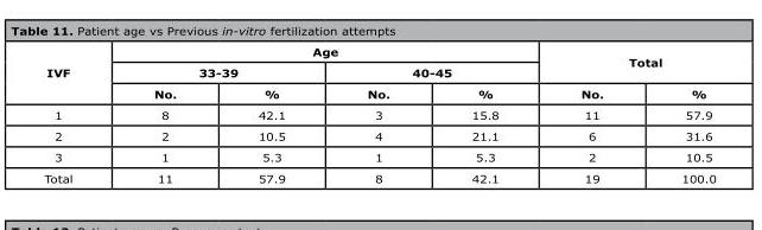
<table><thead><tr><td rowspan="3">IVF</td><td colspan="4">Age</td><td rowspan="2" colspan="2">Total</td></tr><tr><td colspan="2">33-39</td><td colspan="2">40-45</td></tr><tr><td>No.</td><td>%</td><td>No.</td><td>%</td><td>No.</td><td>%</td></tr></thead><tbody><tr><td>1</td><td>8</td><td>42.1</td><td>3</td><td>15.8</td><td>11</td><td>57.9</td></tr><tr><td>2</td><td>2</td><td>10.5</td><td>4</td><td>21.1</td><td>6</td><td>31.6</td></tr><tr><td>3</td><td>1</td><td>5.3</td><td>1</td><td>5.3</td><td>2</td><td>10.5</td></tr><tr><td>Total</td><td>11</td><td>57.9</td><td>8</td><td>42.1</td><td>19</td><td>100.0</td></tr></tbody></table>